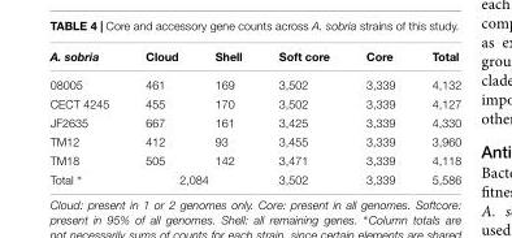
<table><thead><tr><td>A. sobria</td><td>Cloud</td><td>Shell</td><td>Soft core</td><td>Core</td><td>Total</td></tr></thead><tbody><tr><td>08005</td><td>461</td><td>169</td><td>3,502</td><td>3,339</td><td>4,132</td></tr><tr><td>CECT 4245</td><td>455</td><td>170</td><td>3,502</td><td>3,339</td><td>4,127</td></tr><tr><td>JF2635</td><td>667</td><td>161</td><td>3,425</td><td>3,339</td><td>4,330</td></tr><tr><td>TM12</td><td>412</td><td>93</td><td>3,455</td><td>3,339</td><td>3,960</td></tr><tr><td>TM18</td><td>505</td><td>142</td><td>3,471</td><td>3,339</td><td>4,118</td></tr><tr><td>Total ∗</td><td colspan="2">2,084</td><td>3,502</td><td>3,339</td><td>5,586</td></tr></tbody></table>